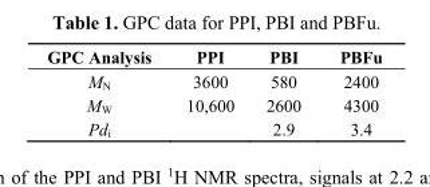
<table><thead><tr><td>GPC Analysis</td><td>PPI</td><td>PBI</td><td>PBFu</td></tr></thead><tbody><tr><td>M<sub>N</sub></td><td>3600</td><td>580</td><td>2400</td></tr><tr><td>M<sub>W</sub></td><td>10,600</td><td>2600</td><td>4300</td></tr><tr><td>Pd<sub>i</sub></td><td></td><td>2.9</td><td>3.4</td></tr></tbody></table>